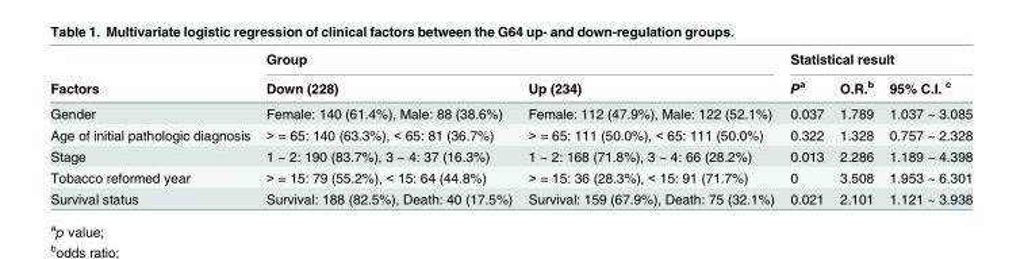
<table><thead><tr><td rowspan="2">Factors</td><td colspan="2">Group</td><td colspan="3">Statistical result</td></tr><tr><td>Down (228)</td><td>Up (234)</td><td>P<sup>a</sup></td><td>O.R.<sup>b</sup></td><td>95% C.I. <sup>c</sup></td></tr></thead><tbody><tr><td>Gender</td><td>Female: 140 (61.4%), Male: 88 (38.6%)</td><td>Female: 112 (47.9%), Male: 122 (52.1%)</td><td>0.037</td><td>1.789</td><td>1.037 ~ 3.085</td></tr><tr><td>Age of initial pathologic diagnosis</td><td>&gt; = 65: 140 (63.3%), &lt; 65: 81 (36.7%)</td><td>&gt; = 65: 111 (50.0%), &lt; 65: 111 (50.0%)</td><td>0.322</td><td>1.328</td><td>0.757 ~ 2.328</td></tr><tr><td>Stage</td><td>1 ~ 2: 190 (83.7%), 3 ~ 4: 37 (16.3%)</td><td>1 ~ 2: 168 (71.8%), 3 ~ 4: 66 (28.2%)</td><td>0.013</td><td>2.286</td><td>1.189 ~ 4.398</td></tr><tr><td>Tobacco reformed year</td><td>&gt; = 15: 79 (55.2%), &lt; 15: 64 (44.8%)</td><td>&gt; = 15: 36 (28.3%), &lt; 15: 91 (71.7%)</td><td>0</td><td>3.508</td><td>1.953 ~ 6.301</td></tr><tr><td>Survival status</td><td>Survival: 188 (82.5%), Death: 40 (17.5%)</td><td>Survival: 159 (67.9%), Death: 75 (32.1%)</td><td>0.021</td><td>2.101</td><td>1.121 ~ 3.938</td></tr></tbody></table>